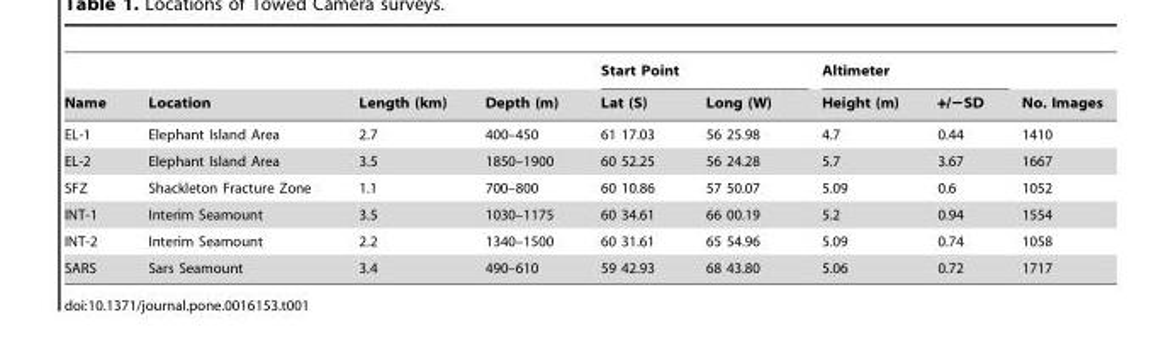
<table><thead><tr><td rowspan="2">Name</td><td rowspan="2">Location</td><td rowspan="2">Length (km)</td><td rowspan="2">Depth (m)</td><td colspan="2">Start Point</td><td colspan="2">Altimeter</td><td rowspan="2">No. Images</td></tr><tr><td>Lat (S)</td><td>Long (W)</td><td>Height (m)</td><td>+/−SD</td></tr></thead><tbody><tr><td>EL-1</td><td>Elephant Island Area</td><td>2.7</td><td>400–450</td><td>61 17.03</td><td>56 25.98</td><td>4.7</td><td>0.44</td><td>1410</td></tr><tr><td>EL-2</td><td>Elephant Island Area</td><td>3.5</td><td>1850–1900</td><td>60 52.25</td><td>56 24.28</td><td>5.7</td><td>3.67</td><td>1667</td></tr><tr><td>SFZ</td><td>Shackleton Fracture Zone</td><td>1.1</td><td>700–800</td><td>60 10.86</td><td>57 50.07</td><td>5.09</td><td>0.6</td><td>1052</td></tr><tr><td>INT-1</td><td>Interim Seamount</td><td>3.5</td><td>1030–1175</td><td>60 34.61</td><td>66 00.19</td><td>5.2</td><td>0.94</td><td>1554</td></tr><tr><td>INT-2</td><td>Interim Seamount</td><td>2.2</td><td>1340–1500</td><td>60 31.61</td><td>65 54.96</td><td>5.09</td><td>0.74</td><td>1058</td></tr><tr><td>SARS</td><td>Sars Seamount</td><td>3.4</td><td>490–610</td><td>59 42.93</td><td>68 43.80</td><td>5.06</td><td>0.72</td><td>1717</td></tr></tbody></table>